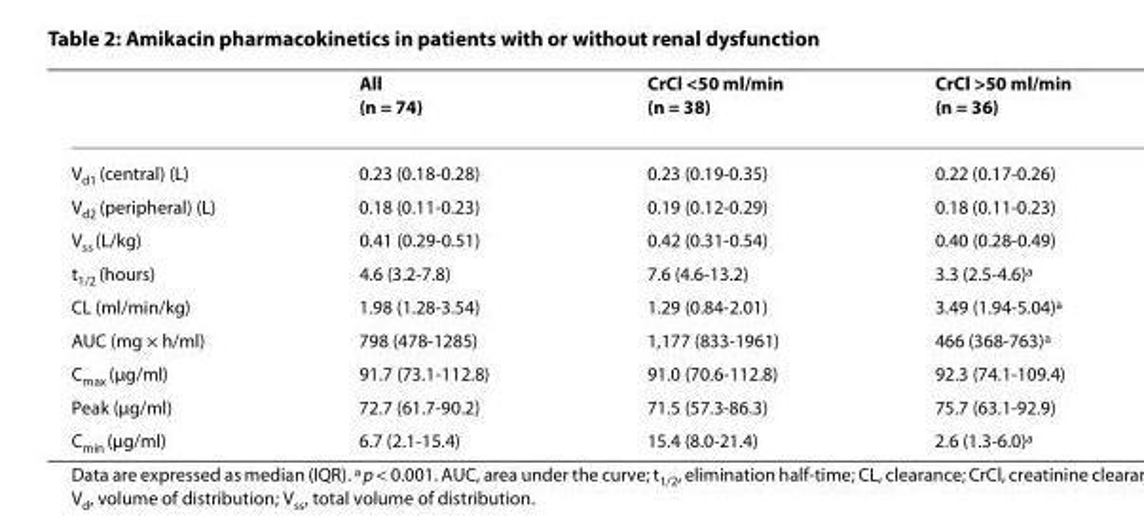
<table><thead><tr><td></td><td>All (n = 74)</td><td>CrCl &lt;50 ml/min (n = 38)</td><td>CrCl &gt;50 ml/min (n = 36)</td></tr></thead><tbody><tr><td>V<sub>d1</sub> (central) (L)</td><td>0.23 (0.18-0.28)</td><td>0.23 (0.19-0.35)</td><td>0.22 (0.17-0.26)</td></tr><tr><td>V<sub>d2</sub> (peripheral) (L)</td><td>0.18 (0.11-0.23)</td><td>0.19 (0.12-0.29)</td><td>0.18 (0.11-0.23)</td></tr><tr><td>V<sub>ss</sub> (L/kg)</td><td>0.41 (0.29-0.51)</td><td>0.42 (0.31-0.54)</td><td>0.40 (0.28-0.49)</td></tr><tr><td>t<sub>1/2</sub> (hours)</td><td>4.6 (3.2-7.8)</td><td>7.6 (4.6-13.2)</td><td>3.3 (2.5-4.6)<sup>a</sup></td></tr><tr><td>CL (ml/min/kg)</td><td>1.98 (1.28-3.54)</td><td>1.29 (0.84-2.01)</td><td>3.49 (1.94-5.04)<sup>a</sup></td></tr><tr><td>AUC (mg × h/ml)</td><td>798 (478-1285)</td><td>1,177 (833-1961)</td><td>466 (368-763)<sup>a</sup></td></tr><tr><td>C<sub>max</sub> (μg/ml)</td><td>91.7 (73.1-112.8)</td><td>91.0 (70.6-112.8)</td><td>92.3 (74.1-109.4)</td></tr><tr><td>Peak (μg/ml)</td><td>72.7 (61.7-90.2)</td><td>71.5 (57.3-86.3)</td><td>75.7 (63.1-92.9)</td></tr><tr><td>C<sub>min</sub> (μg/ml)</td><td>6.7 (2.1-15.4)</td><td>15.4 (8.0-21.4)</td><td>2.6 (1.3-6.0)<sup>a</sup></td></tr></tbody></table>